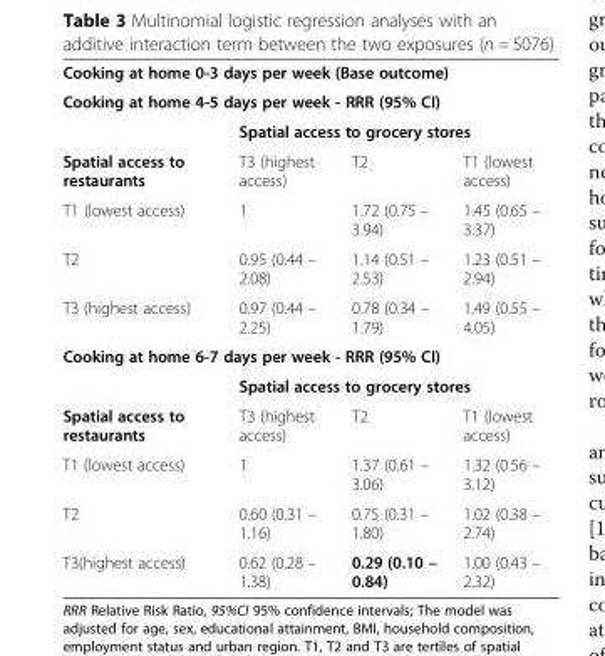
<table><tbody><tr><td colspan="4">Cooking at home 0-3 days per week (Base outcome)</td></tr><tr><td colspan="4">Cooking at home 4-5 days per week - RRR (95% CI)</td></tr><tr><td></td><td colspan="3">Spatial access to grocery stores</td></tr><tr><td>Spatial access to restaurants</td><td>T3 (highest access)</td><td>T2</td><td>T1 (lowest access)</td></tr><tr><td>T1 (lowest access)</td><td>1</td><td>1.72 (0.75 – 3.94)</td><td>1.45 (0.65 – 3.37)</td></tr><tr><td>T2</td><td>0.95 (0.44 – 2.08)</td><td>1.14 (0.51 – 2.53)</td><td>1.23 (0.51 – 2.94)</td></tr><tr><td>T3 (highest access)</td><td>0.97 (0.44 – 2.25)</td><td>0.78 (0.34 – 1.79)</td><td>1.49 (0.55 – 4.05)</td></tr><tr><td colspan="4">Cooking at home 6-7 days per week - RRR (95% CI)</td></tr><tr><td></td><td colspan="3">Spatial access to grocery stores</td></tr><tr><td>Spatial access to restaurants</td><td>T3 (highest access)</td><td>T2</td><td>T1 (lowest access)</td></tr><tr><td>T1 (lowest access)</td><td>1</td><td>1.37 (0.61 – 3.06)</td><td>1.32 (0.56 – 3.12)</td></tr><tr><td>T2</td><td>0.60 (0.31 – 1.16)</td><td>0.75 (0.31 – 1.80)</td><td>1.02 (0.38 – 2.74)</td></tr><tr><td>T3(highest access)</td><td>0.62 (0.28 – 1.38)</td><td>0.29 (0.10 – 0.84)</td><td>1.00 (0.43 – 2.32)</td></tr></tbody></table>